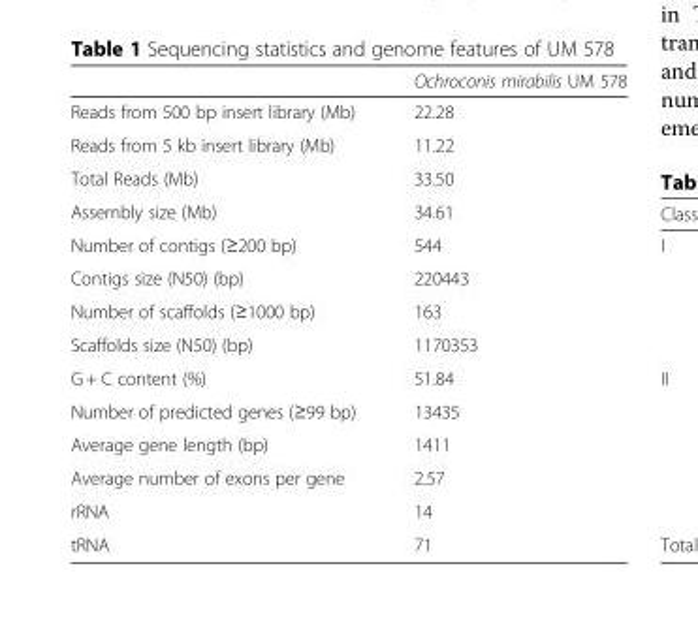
<table><thead><tr><td></td><td>Ochroconis mirabilis UM 578</td></tr></thead><tbody><tr><td>Reads from 500 bp insert library (Mb)</td><td>22.28</td></tr><tr><td>Reads from 5 kb insert library (Mb)</td><td>11.22</td></tr><tr><td>Total Reads (Mb)</td><td>33.50</td></tr><tr><td>Assembly size (Mb)</td><td>34.61</td></tr><tr><td>Number of contigs (≥200 bp)</td><td>544</td></tr><tr><td>Contigs size (N50) (bp)</td><td>220443</td></tr><tr><td>Number of scaffolds (≥1000 bp)</td><td>163</td></tr><tr><td>Scaffolds size (N50) (bp)</td><td>1170353</td></tr><tr><td>G + C content (%)</td><td>51.84</td></tr><tr><td>Number of predicted genes (≥99 bp)</td><td>13435</td></tr><tr><td>Average gene length (bp)</td><td>1411</td></tr><tr><td>Average number of exons per gene</td><td>2.57</td></tr><tr><td>rRNA</td><td>14</td></tr><tr><td>tRNA</td><td>71</td></tr></tbody></table>